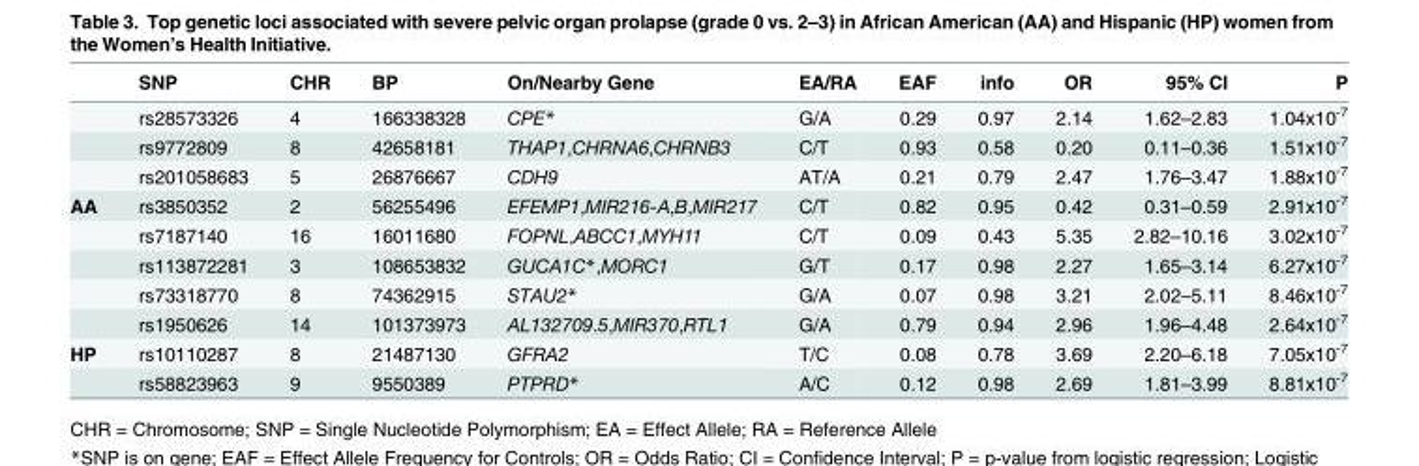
<table><thead><tr><td></td><td>SNP</td><td>CHR</td><td>BP</td><td>On/Nearby Gene</td><td>EA/RA</td><td>EAF</td><td>info</td><td>OR</td><td>95% CI</td><td>P</td></tr></thead><tbody><tr><td></td><td>rs28573326</td><td>4</td><td>166338328</td><td>CPE*</td><td>G/A</td><td>0.29</td><td>0.97</td><td>2.14</td><td>1.62–2.83</td><td>1.04x10<sup>-7</sup></td></tr><tr><td></td><td>rs9772809</td><td>8</td><td>42658181</td><td>THAP1,CHRNA6,CHRNB3</td><td>C/T</td><td>0.93</td><td>0.58</td><td>0.20</td><td>0.11–0.36</td><td>1.51x10<sup>-7</sup></td></tr><tr><td></td><td>rs201058683</td><td>5</td><td>26876667</td><td>CDH9</td><td>AT/A</td><td>0.21</td><td>0.79</td><td>2.47</td><td>1.76–3.47</td><td>1.88x10<sup>-7</sup></td></tr><tr><td rowspan="5">AA</td><td>rs3850352</td><td>2</td><td>56255496</td><td>EFEMP1,MIR216-A,B,MIR217</td><td>C/T</td><td>0.82</td><td>0.95</td><td>0.42</td><td>0.31–0.59</td><td>2.91x10<sup>-7</sup></td></tr><tr><td>rs7187140</td><td>16</td><td>16011680</td><td>FOPNL,ABCC1,MYH11</td><td>C/T</td><td>0.09</td><td>0.43</td><td>5.35</td><td>2.82–10.16</td><td>3.02x10<sup>-7</sup></td></tr><tr><td>rs113872281</td><td>3</td><td>108653832</td><td>GUCA1C*,MORC1</td><td>G/T</td><td>0.17</td><td>0.98</td><td>2.27</td><td>1.65–3.14</td><td>6.27x10<sup>-7</sup></td></tr><tr><td>rs73318770</td><td>8</td><td>74362915</td><td>STAU2*</td><td>G/A</td><td>0.07</td><td>0.98</td><td>3.21</td><td>2.02–5.11</td><td>8.46x10<sup>-7</sup></td></tr><tr><td>rs1950626</td><td>14</td><td>101373973</td><td>AL132709.5,MIR370,RTL1</td><td>G/A</td><td>0.79</td><td>0.94</td><td>2.96</td><td>1.96–4.48</td><td>2.64x10<sup>-7</sup></td></tr><tr><td rowspan="2">HP</td><td>rs10110287</td><td>8</td><td>21487130</td><td>GFRA2</td><td>T/C</td><td>0.08</td><td>0.78</td><td>3.69</td><td>2.20–6.18</td><td>7.05x10<sup>-7</sup></td></tr><tr><td>rs58823963</td><td>9</td><td>9550389</td><td>PTPRD*</td><td>A/C</td><td>0.12</td><td>0.98</td><td>2.69</td><td>1.81–3.99</td><td>8.81x10<sup>-7</sup></td></tr></tbody></table>